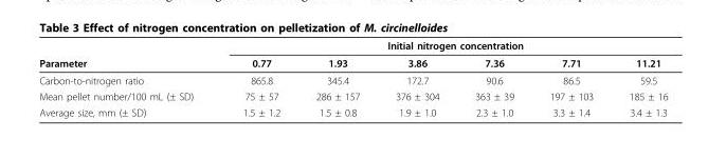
<table><thead><tr><td rowspan="2">Parameter</td><td colspan="6">Initial nitrogen concentration</td></tr><tr><td>0.77</td><td>1.93</td><td>3.86</td><td>7.36</td><td>7.71</td><td>11.21</td></tr></thead><tbody><tr><td>Carbon-to-nitrogen ratio</td><td>865.8</td><td>345.4</td><td>172.7</td><td>90.6</td><td>86.5</td><td>59.5</td></tr><tr><td>Mean pellet number/100 mL (± SD)</td><td>75 ± 57</td><td>286 ± 157</td><td>376 ± 304</td><td>363 ± 39</td><td>197 ± 103</td><td>185 ± 16</td></tr><tr><td>Average size, mm (± SD)</td><td>1.5 ± 1.2</td><td>1.5 ± 0.8</td><td>1.9 ± 1.0</td><td>2.3 ± 1.0</td><td>3.3 ± 1.4</td><td>3.4 ± 1.3</td></tr></tbody></table>